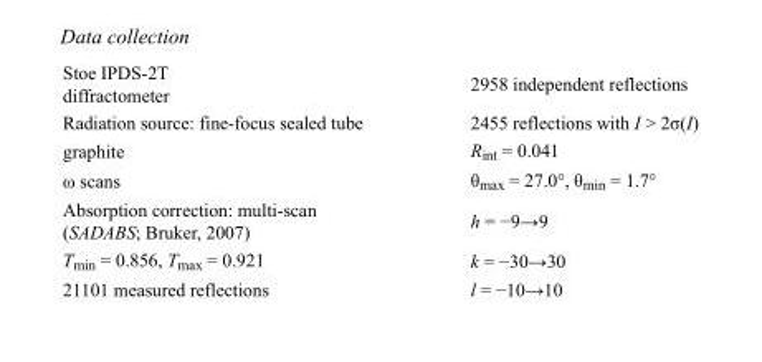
<table><tbody><tr><td>Stoe IPDS-2T diffractometer</td><td>2958 independent reflections</td></tr><tr><td>Radiation source: fine-focus sealed tube</td><td>2455 reflections with I &gt; 2σ(I)</td></tr><tr><td>graphite</td><td>R<sub>int</sub> = 0.041</td></tr><tr><td>ω scans</td><td>θ<sub>max</sub> = 27.0°, θ<sub>min</sub> = 1.7°</td></tr><tr><td>Absorption correction: multi-scan (SADABS; Bruker, 2007)</td><td>h = −9→9</td></tr><tr><td>T<sub>min</sub> = 0.856, T<sub>max</sub> = 0.921</td><td>k = −30→30</td></tr><tr><td>21101 measured reflections</td><td>l = −10→10</td></tr></tbody></table>